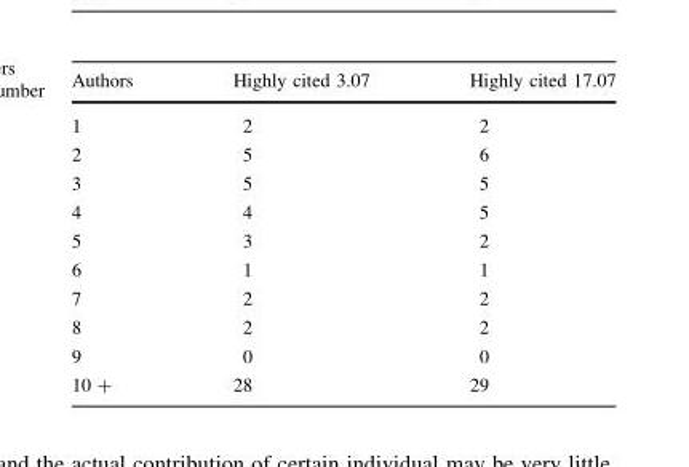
<table><thead><tr><td>Authors</td><td>Highly cited 3.07</td><td>Highly cited 17.07</td></tr></thead><tbody><tr><td>1</td><td>2</td><td>2</td></tr><tr><td>2</td><td>5</td><td>6</td></tr><tr><td>3</td><td>5</td><td>5</td></tr><tr><td>4</td><td>4</td><td>5</td></tr><tr><td>5</td><td>3</td><td>2</td></tr><tr><td>6</td><td>1</td><td>1</td></tr><tr><td>7</td><td>2</td><td>2</td></tr><tr><td>8</td><td>2</td><td>2</td></tr><tr><td>9</td><td>0</td><td>0</td></tr><tr><td>10 +</td><td>28</td><td>29</td></tr></tbody></table>